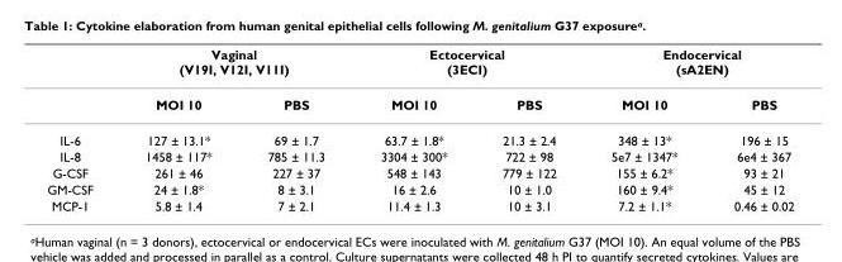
<table><thead><tr><td rowspan="2"></td><td colspan="2">Vaginal (V19I, V12I, V11I)</td><td colspan="2">Ectocervical (3ECI)</td><td colspan="2">Endocervical (sA2EN)</td></tr><tr><td>MOI 10</td><td>PBS</td><td>MOI 10</td><td>PBS</td><td>MOI 10</td><td>PBS</td></tr></thead><tbody><tr><td>IL-6</td><td>127 ± 13.1*</td><td>69 ± 1.7</td><td>63.7 ± 1.8*</td><td>21.3 ± 2.4</td><td>348 ± 13*</td><td>196 ± 15</td></tr><tr><td>IL-8</td><td>1458 ± 117*</td><td>785 ± 11.3</td><td>3304 ± 300*</td><td>722 ± 98</td><td>5e7 ± 1347*</td><td>6e4 ± 367</td></tr><tr><td>G-CSF</td><td>261 ± 46</td><td>227 ± 37</td><td>548 ± 143</td><td>779 ± 122</td><td>155 ± 6.2*</td><td>93 ± 21</td></tr><tr><td>GM-CSF</td><td>24 ± 1.8*</td><td>8 ± 3.1</td><td>16 ± 2.6</td><td>10 ± 1.0</td><td>160 ± 9.4*</td><td>45 ± 12</td></tr><tr><td>MCP-1</td><td>5.8 ± 1.4</td><td>7 ± 2.1</td><td>11.4 ± 1.3</td><td>10 ± 3.1</td><td>7.2 ± 1.1*</td><td>0.46 ± 0.02</td></tr></tbody></table>